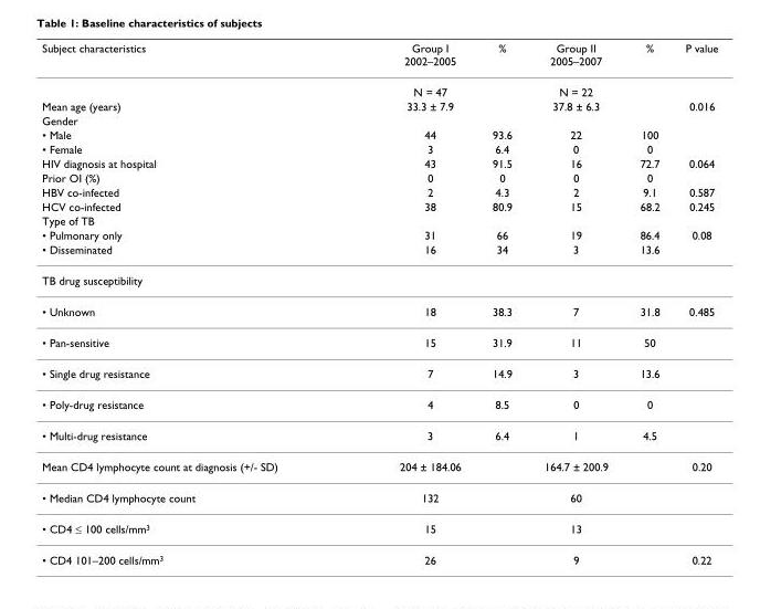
<table><thead><tr><td>Subject characteristics</td><td>Group I 2002–2005</td><td>%</td><td>Group II 2005–2007</td><td>%</td><td>P value</td></tr></thead><tbody><tr><td></td><td>N = 47</td><td></td><td>N = 22</td><td></td><td></td></tr><tr><td>Mean age (years)</td><td>33.3 ± 7.9</td><td></td><td>37.8 ± 6.3</td><td></td><td>0.016</td></tr><tr><td colspan="6">Gender</td></tr><tr><td>• Male</td><td>44</td><td>93.6</td><td>22</td><td>100</td><td></td></tr><tr><td>• Female</td><td>3</td><td>6.4</td><td>0</td><td>0</td><td></td></tr><tr><td>HIV diagnosis at hospital</td><td>43</td><td>91.5</td><td>16</td><td>72.7</td><td>0.064</td></tr><tr><td>Prior OI (%)</td><td>0</td><td>0</td><td>0</td><td>0</td><td></td></tr><tr><td>HBV co-infected</td><td>2</td><td>4.3</td><td>2</td><td>9.1</td><td>0.587</td></tr><tr><td>HCV co-infected</td><td>38</td><td>80.9</td><td>15</td><td>68.2</td><td>0.245</td></tr><tr><td colspan="6">Type of TB</td></tr><tr><td>• Pulmonary only</td><td>31</td><td>66</td><td>19</td><td>86.4</td><td>0.08</td></tr><tr><td>• Disseminated</td><td>16</td><td>34</td><td>3</td><td>13.6</td><td></td></tr><tr><td colspan="6">TB drug susceptibility</td></tr><tr><td>• Unknown</td><td>18</td><td>38.3</td><td>7</td><td>31.8</td><td>0.485</td></tr><tr><td>• Pan-sensitive</td><td>15</td><td>31.9</td><td>11</td><td>50</td><td></td></tr><tr><td>• Single drug resistance</td><td>7</td><td>14.9</td><td>3</td><td>13.6</td><td></td></tr><tr><td>• Poly-drug resistance</td><td>4</td><td>8.5</td><td>0</td><td>0</td><td></td></tr><tr><td>• Multi-drug resistance</td><td>3</td><td>6.4</td><td>1</td><td>4.5</td><td></td></tr><tr><td>Mean CD4 lymphocyte count at diagnosis (+/- SD)</td><td>204 ± 184.06</td><td></td><td>164.7 ± 200.9</td><td></td><td>0.20</td></tr><tr><td>• Median CD4 lymphocyte count</td><td>132</td><td></td><td>60</td><td></td><td></td></tr><tr><td>• CD4 ≤ 100 cells/mm<sup>3</sup></td><td>15</td><td></td><td>13</td><td></td><td></td></tr><tr><td>• CD4 101–200 cells/mm<sup>3</sup></td><td>26</td><td></td><td>9</td><td></td><td>0.22</td></tr></tbody></table>